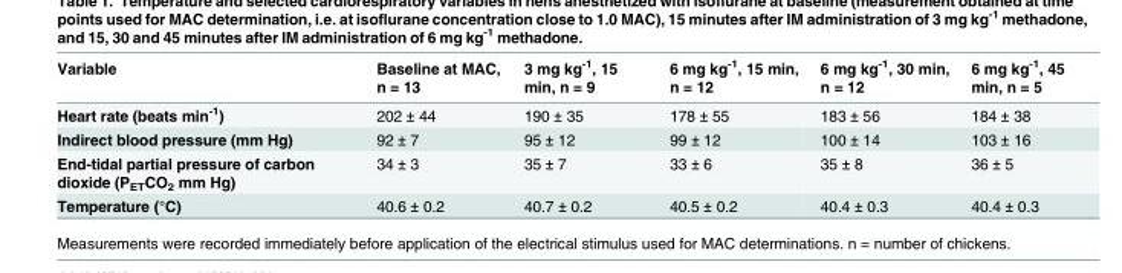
<table><thead><tr><td>Variable</td><td>Baseline at MAC, n = 13</td><td>3 mg kg<sup>-1</sup>, 15 min, n = 9</td><td>6 mg kg<sup>-1</sup>, 15 min, n = 12</td><td>6 mg kg<sup>-1</sup>, 30 min, n = 12</td><td>6 mg kg<sup>-1</sup>, 45 min, n = 5</td></tr></thead><tbody><tr><td>Heart rate (beats min<sup>-1</sup>)</td><td>202 ± 44</td><td>190 ± 35</td><td>178 ± 55</td><td>183 ± 56</td><td>184 ± 38</td></tr><tr><td>Indirect blood pressure (mm Hg)</td><td>92 ± 7</td><td>95 ± 12</td><td>99 ± 12</td><td>100 ± 14</td><td>103 ± 16</td></tr><tr><td>End-tidal partial pressure of carbon dioxide (P<sub>ET</sub>CO<sub>2</sub> mm Hg)</td><td>34 ± 3</td><td>35 ± 7</td><td>33 ± 6</td><td>35 ± 8</td><td>36 ± 5</td></tr><tr><td>Temperature (°C)</td><td>40.6 ± 0.2</td><td>40.7 ± 0.2</td><td>40.5 ± 0.2</td><td>40.4 ± 0.3</td><td>40.4 ± 0.3</td></tr></tbody></table>